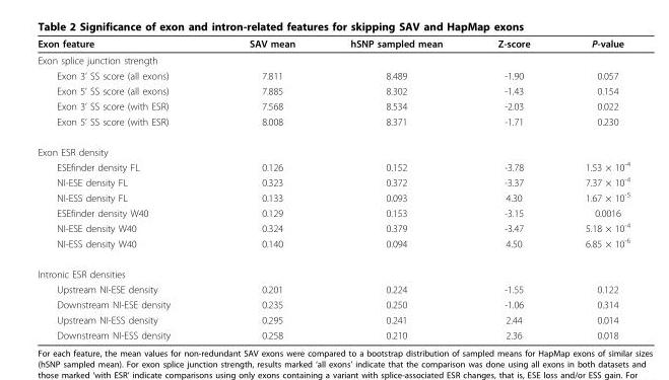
<table><thead><tr><td>Exon feature</td><td>SAV mean</td><td>hSNP sampled mean</td><td>Z-score</td><td>P-value</td></tr></thead><tbody><tr><td colspan="5">Exon splice junction strength</td></tr><tr><td>Exon 3’ SS score (all exons)</td><td>7.811</td><td>8.489</td><td>-1.90</td><td>0.057</td></tr><tr><td>Exon 5’ SS score (all exons)</td><td>7.885</td><td>8.302</td><td>-1.43</td><td>0.154</td></tr><tr><td>Exon 3’ SS score (with ESR)</td><td>7.568</td><td>8.534</td><td>-2.03</td><td>0.022</td></tr><tr><td>Exon 5’ SS score (with ESR)</td><td>8.008</td><td>8.371</td><td>-1.71</td><td>0.230</td></tr><tr><td colspan="5">Exon ESR density</td></tr><tr><td>ESEfinder density FL</td><td>0.126</td><td>0.152</td><td>-3.78</td><td>1.53 × 10<sup>-4</sup></td></tr><tr><td>NI-ESE density FL</td><td>0.323</td><td>0.372</td><td>-3.37</td><td>7.37 × 10<sup>-4</sup></td></tr><tr><td>NI-ESS density FL</td><td>0.133</td><td>0.093</td><td>4.30</td><td>1.67 × 10<sup>-5</sup></td></tr><tr><td>ESEfinder density W40</td><td>0.129</td><td>0.153</td><td>-3.15</td><td>0.0016</td></tr><tr><td>NI-ESE density W40</td><td>0.324</td><td>0.379</td><td>-3.47</td><td>5.18 × 10<sup>-4</sup></td></tr><tr><td>NI-ESS density W40</td><td>0.140</td><td>0.094</td><td>4.50</td><td>6.85 × 10<sup>-6</sup></td></tr><tr><td colspan="5">Intronic ESR densities</td></tr><tr><td>Upstream NI-ESE density</td><td>0.201</td><td>0.224</td><td>-1.55</td><td>0.122</td></tr><tr><td>Downstream NI-ESE density</td><td>0.235</td><td>0.250</td><td>-1.06</td><td>0.314</td></tr><tr><td>Upstream NI-ESS density</td><td>0.295</td><td>0.241</td><td>2.44</td><td>0.014</td></tr><tr><td>Downstream NI-ESS density</td><td>0.258</td><td>0.210</td><td>2.36</td><td>0.018</td></tr></tbody></table>